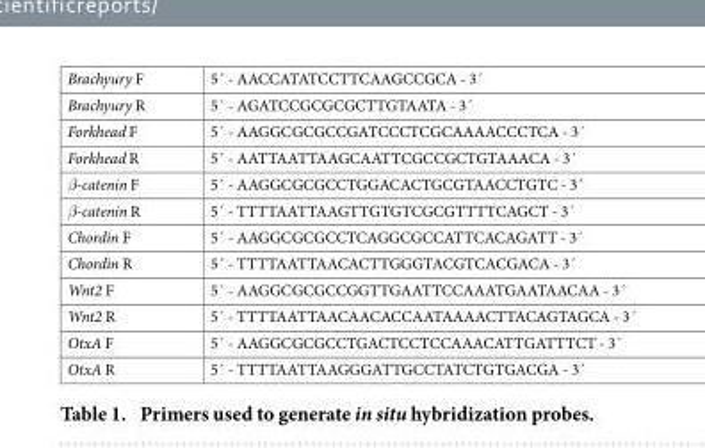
<table><tbody><tr><td>Brachyury F</td><td>5´ - AACCATATCCTTCAAGCCGCA - 3´</td></tr><tr><td>Brachyury R</td><td>5´ - AGATCCGCGCGCTTGTAATA - 3´</td></tr><tr><td>Forkhead F</td><td>5´ - AAGGCGCGCCGATCCCTCGCAAAACCCTCA - 3´</td></tr><tr><td>Forkhead R</td><td>5´ - AATTAATTAAGCAATTCGCCGCTGTAAACA - 3´</td></tr><tr><td>β-catenin F</td><td>5´ - AAGGCGCGCCTGGACACTGCGTAACCTGTC - 3´</td></tr><tr><td>β-catenin R</td><td>5´ - TTTTAATTAAGTTGTGTCGCGTTTTCAGCT - 3´</td></tr><tr><td>Chordin F</td><td>5´ - AAGGCGCGCCTCAGGCGCCATTCACAGATT - 3´</td></tr><tr><td>Chordin R</td><td>5´ - TTTTAATTAACACTTGGGTACGTCACGACA - 3´</td></tr><tr><td>Wnt2 F</td><td>5´ - AAGGCGCGCCGGTTGAATTCCAAATGAATAACAA - 3´</td></tr><tr><td>Wnt2 R</td><td>5´ - TTTTAATTAACAACACCAATAAAACTTACAGTAGCA - 3´</td></tr><tr><td>OtxA F</td><td>5´ - AAGGCGCGCCTGACTCCTCCAAACATTGATTTCT - 3´</td></tr><tr><td>OtxA R</td><td>5´ - TTTTAATTAAGGGATTGCCTATCTGTGACGA - 3´</td></tr></tbody></table>